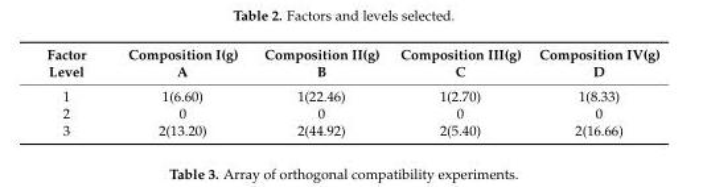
<table><thead><tr><td>Factor Level</td><td>Composition I(g) A</td><td>Composition II(g) B</td><td>Composition III(g) C</td><td>Composition IV(g) D</td></tr></thead><tbody><tr><td>1</td><td>1(6.60)</td><td>1(22.46)</td><td>1(2.70)</td><td>1(8.33)</td></tr><tr><td>2</td><td>0</td><td>0</td><td>0</td><td>0</td></tr><tr><td>3</td><td>2(13.20)</td><td>2(44.92)</td><td>2(5.40)</td><td>2(16.66)</td></tr></tbody></table>